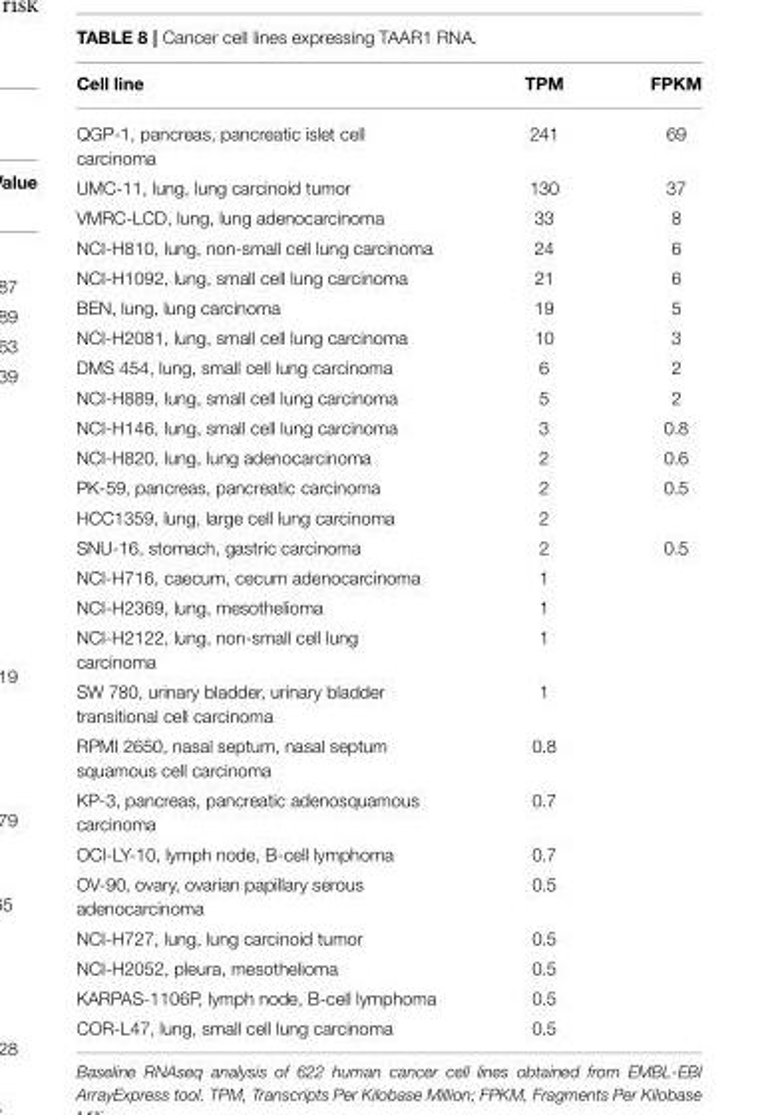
<table><thead><tr><td>Cell line</td><td>TPM</td><td>FPKM</td></tr></thead><tbody><tr><td>QGP-1, pancreas, pancreatic islet cell carcinoma</td><td>241</td><td>69</td></tr><tr><td>UMC-11, lung, lung carcinoid tumor</td><td>130</td><td>37</td></tr><tr><td>VMRC-LCD, lung, lung adenocarcinoma</td><td>33</td><td>8</td></tr><tr><td>NCI-H810, lung, non-small cell lung carcinoma</td><td>24</td><td>6</td></tr><tr><td>NCI-H1092, lung, small cell lung carcinoma</td><td>21</td><td>6</td></tr><tr><td>BEN, lung, lung carcinoma</td><td>19</td><td>5</td></tr><tr><td>NCI-H2081, lung, small cell lung carcinoma</td><td>10</td><td>3</td></tr><tr><td>DMS 454, lung, small cell lung carcinoma</td><td>6</td><td>2</td></tr><tr><td>NCI-H889, lung, small cell lung carcinoma</td><td>5</td><td>2</td></tr><tr><td>NCI-H146, lung, small cell lung carcinoma</td><td>3</td><td>0.8</td></tr><tr><td>NCI-H820, lung, lung adenocarcinoma</td><td>2</td><td>0.6</td></tr><tr><td>PK-59, pancreas, pancreatic carcinoma</td><td>2</td><td>0.5</td></tr><tr><td>HCC1359, lung, large cell lung carcinoma</td><td>2</td><td></td></tr><tr><td>SNU-16, stomach, gastric carcinoma</td><td>2</td><td>0.5</td></tr><tr><td>NCI-H716, caecum, cecum adenocarcinoma</td><td>1</td><td></td></tr><tr><td>NCI-H2369, lung, mesothelioma</td><td>1</td><td></td></tr><tr><td>NCI-H2122, lung, non-small cell lung carcinoma</td><td>1</td><td></td></tr><tr><td>SW 780, urinary bladder, urinary bladder transitional cell carcinoma</td><td>1</td><td></td></tr><tr><td>RPMI 2650, nasal septum, nasal septum squamous cell carcinoma</td><td>0.8</td><td></td></tr><tr><td>KP-3, pancreas, pancreatic adenosquamous carcinoma</td><td>0.7</td><td></td></tr><tr><td>OCI-LY-10, lymph node, B-cell lymphoma</td><td>0.7</td><td></td></tr><tr><td>OV-90, ovary, ovarian papillary serous adenocarcinoma</td><td>0.5</td><td></td></tr><tr><td>NCI-H727, lung, lung carcinoid tumor</td><td>0.5</td><td></td></tr><tr><td>NCI-H2052, pleura, mesothelioma</td><td>0.5</td><td></td></tr><tr><td>KARPAS-1106P, lymph node, B-cell lymphoma</td><td>0.5</td><td></td></tr><tr><td>COR-L47, lung, small cell lung carcinoma</td><td>0.5</td><td></td></tr></tbody></table>